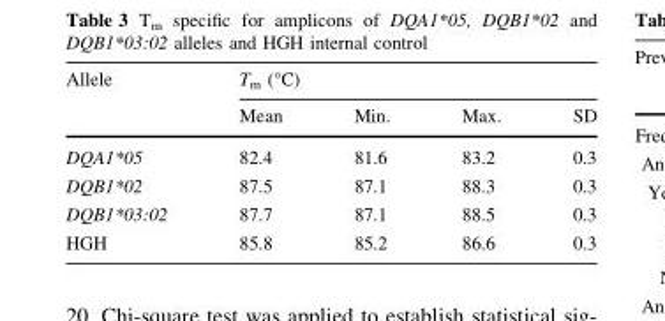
<table><thead><tr><td rowspan="2">Allele</td><td colspan="4">T<sub>m</sub> (°C)</td></tr><tr><td>Mean</td><td>Min.</td><td>Max.</td><td>SD</td></tr></thead><tbody><tr><td>DQA1*05</td><td>82.4</td><td>81.6</td><td>83.2</td><td>0.3</td></tr><tr><td>DQB1*02</td><td>87.5</td><td>87.1</td><td>88.3</td><td>0.3</td></tr><tr><td>DQB1*03:02</td><td>87.7</td><td>87.1</td><td>88.5</td><td>0.3</td></tr><tr><td>HGH</td><td>85.8</td><td>85.2</td><td>86.6</td><td>0.3</td></tr></tbody></table>